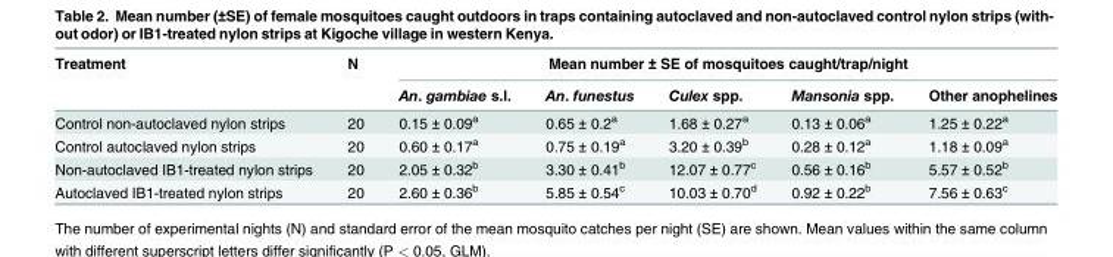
<table><thead><tr><td rowspan="2">Treatment</td><td rowspan="2">N</td><td colspan="5">Mean number ± SE of mosquitoes caught/trap/night</td></tr><tr><td>An. gambiae s.l.</td><td>An. funestus</td><td>Culex spp.</td><td>Mansonia spp.</td><td>Other anophelines</td></tr></thead><tbody><tr><td>Control non-autoclaved nylon strips</td><td>20</td><td>0.15 ± 0.09<sup>a</sup></td><td>0.65 ± 0.2<sup>a</sup></td><td>1.68 ± 0.27<sup>a</sup></td><td>0.13 ± 0.06<sup>a</sup></td><td>1.25 ± 0.22<sup>a</sup></td></tr><tr><td>Control autoclaved nylon strips</td><td>20</td><td>0.60 ± 0.17<sup>a</sup></td><td>0.75 ± 0.19<sup>a</sup></td><td>3.20 ± 0.39<sup>b</sup></td><td>0.28 ± 0.12<sup>a</sup></td><td>1.18 ± 0.09<sup>a</sup></td></tr><tr><td>Non-autoclaved IB1-treated nylon strips</td><td>20</td><td>2.05 ± 0.32<sup>b</sup></td><td>3.30 ± 0.41<sup>b</sup></td><td>12.07 ± 0.77<sup>c</sup></td><td>0.56 ± 0.16<sup>b</sup></td><td>5.57 ± 0.52<sup>b</sup></td></tr><tr><td>Autoclaved IB1-treated nylon strips</td><td>20</td><td>2.60 ± 0.36<sup>b</sup></td><td>5.85 ± 0.54<sup>c</sup></td><td>10.03 ± 0.70<sup>d</sup></td><td>0.92 ± 0.22<sup>b</sup></td><td>7.56 ± 0.63<sup>c</sup></td></tr></tbody></table>